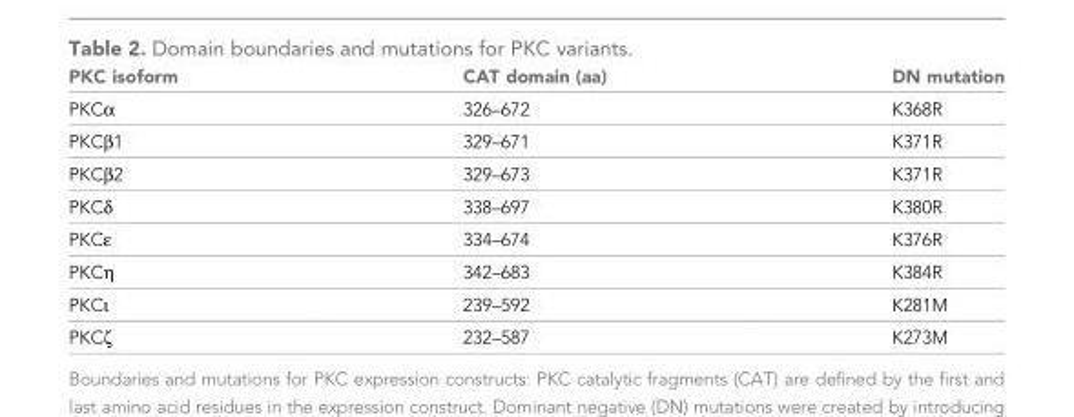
<table><thead><tr><td>PKC isoform</td><td>CAT domain (aa)</td><td>DN mutation</td></tr></thead><tbody><tr><td>PKCα</td><td>326–672</td><td>K368R</td></tr><tr><td>PKCβ1</td><td>329–671</td><td>K371R</td></tr><tr><td>PKCβ2</td><td>329–673</td><td>K371R</td></tr><tr><td>PKCδ</td><td>338–697</td><td>K380R</td></tr><tr><td>PKCε</td><td>334–674</td><td>K376R</td></tr><tr><td>PKCη</td><td>342–683</td><td>K384R</td></tr><tr><td>PKCι</td><td>239–592</td><td>K281M</td></tr><tr><td>PKCζ</td><td>232–587</td><td>K273M</td></tr></tbody></table>